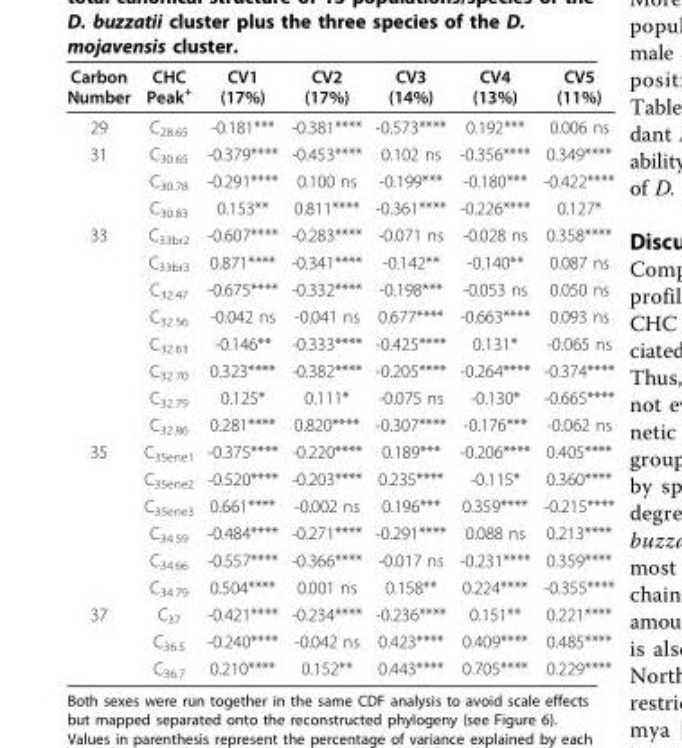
<table><thead><tr><td>Carbon Number</td><td>CHC Peak<sup>+</sup></td><td>CV1 (17%)</td><td>CV2 (17%)</td><td>CV3 (14%)</td><td>CV4 (13%)</td><td>CV5 (11%)</td></tr></thead><tbody><tr><td>29</td><td>C<sub>28.65</sub></td><td>-0.181***</td><td>-0.381****</td><td>-0.573****</td><td>0.192***</td><td>0.006 ns</td></tr><tr><td rowspan="3">31</td><td>C<sub>30.65</sub></td><td>-0.379****</td><td>-0.453****</td><td>0.102 ns</td><td>-0.356****</td><td>0.349****</td></tr><tr><td>C<sub>30.78</sub></td><td>-0.291****</td><td>0.100 ns</td><td>-0.199***</td><td>-0.180***</td><td>-0.422****</td></tr><tr><td>C<sub>30.83</sub></td><td>0.153**</td><td>0.811****</td><td>-0.361****</td><td>-0.226****</td><td>0.127*</td></tr><tr><td rowspan="8">33</td><td>C<sub>33br2</sub></td><td>-0.607****</td><td>-0.283****</td><td>-0.071 ns</td><td>-0.028 ns</td><td>0.358****</td></tr><tr><td>C<sub>33br3</sub></td><td>0.871****</td><td>-0.341****</td><td>-0.142**</td><td>-0.140**</td><td>0.087 ns</td></tr><tr><td>C<sub>32.47</sub></td><td>-0.675****</td><td>-0.332****</td><td>-0.198***</td><td>-0.053 ns</td><td>0.050 ns</td></tr><tr><td>C<sub>32.56</sub></td><td>-0.042 ns</td><td>-0.041 ns</td><td>0.677****</td><td>-0.663****</td><td>0.093 ns</td></tr><tr><td>C<sub>32.63</sub></td><td>-0.146**</td><td>-0.333****</td><td>-0.425****</td><td>0.131*</td><td>-0.065 ns</td></tr><tr><td>C<sub>32.70</sub></td><td>0.323****</td><td>-0.382****</td><td>-0.205****</td><td>-0.264****</td><td>-0.374****</td></tr><tr><td>C<sub>32.79</sub></td><td>0.125*</td><td>0.111*</td><td>-0.075 ns</td><td>-0.130*</td><td>-0.665****</td></tr><tr><td>C<sub>32.86</sub></td><td>0.281****</td><td>0.820****</td><td>-0.307****</td><td>-0.176***</td><td>-0.062 ns</td></tr><tr><td rowspan="6">35</td><td>C<sub>35ene1</sub></td><td>-0.375****</td><td>-0.220****</td><td>0.189***</td><td>-0.206****</td><td>0.405****</td></tr><tr><td>C<sub>35ene2</sub></td><td>-0.520****</td><td>-0.203****</td><td>0.235****</td><td>-0.115*</td><td>0.360****</td></tr><tr><td>C<sub>35ene3</sub></td><td>0.661****</td><td>-0.002 ns</td><td>0.196***</td><td>0.359****</td><td>-0.215****</td></tr><tr><td>C<sub>34.59</sub></td><td>-0.484****</td><td>-0.271****</td><td>-0.291****</td><td>0.088 ns</td><td>0.213****</td></tr><tr><td>C<sub>34.66</sub></td><td>-0.557****</td><td>-0.366****</td><td>-0.017 ns</td><td>-0.231****</td><td>0.359****</td></tr><tr><td>C<sub>34.79</sub></td><td>0.504****</td><td>0.001 ns</td><td>0.158**</td><td>0.224****</td><td>-0.355****</td></tr><tr><td rowspan="3">37</td><td>C<sub>37</sub></td><td>-0.421****</td><td>-0.234****</td><td>-0.236****</td><td>0.151**</td><td>0.221****</td></tr><tr><td>C<sub>36.5</sub></td><td>-0.240****</td><td>-0.042 ns</td><td>0.423****</td><td>0.409****</td><td>0.485****</td></tr><tr><td>C<sub>36.7</sub></td><td>0.210****</td><td>0.152**</td><td>0.443****</td><td>0.705****</td><td>0.229****</td></tr></tbody></table>